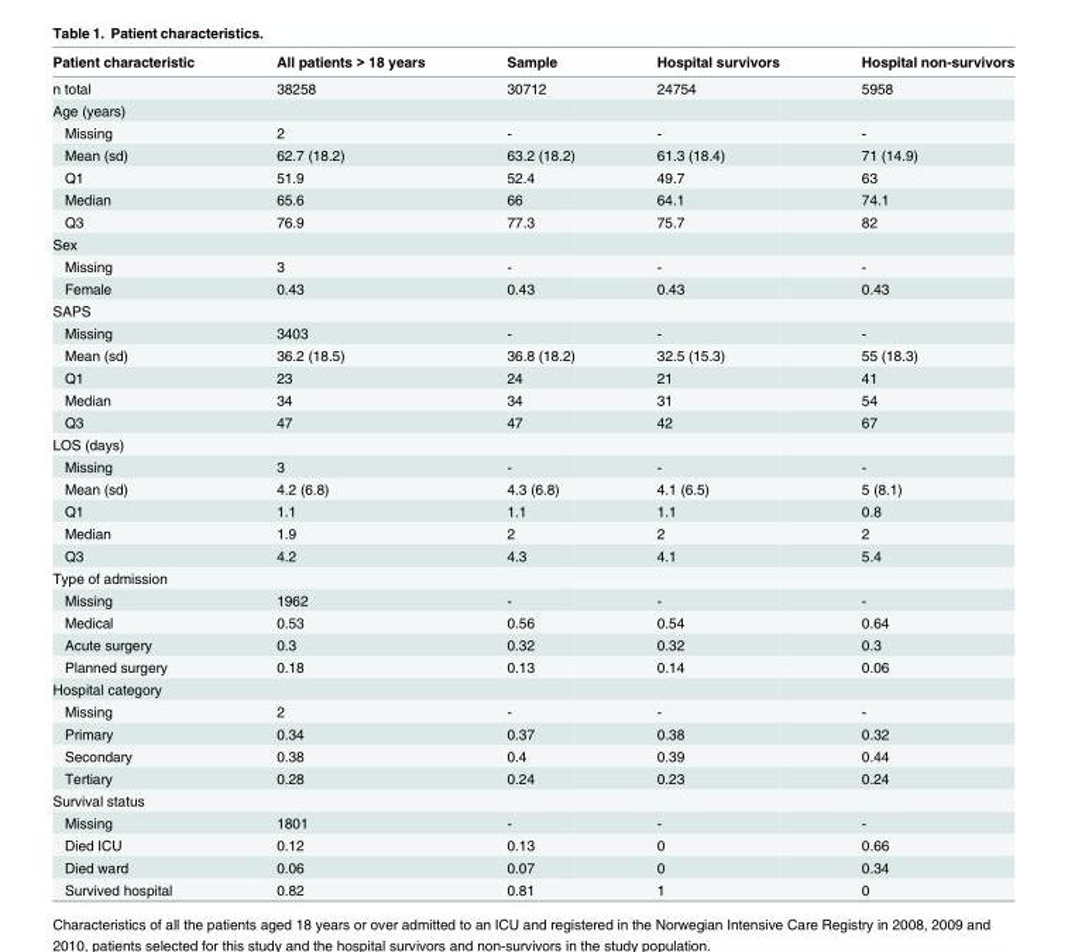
<table><thead><tr><td>Patient characteristic</td><td>All patients &gt; 18 years</td><td>Sample</td><td>Hospital survivors</td><td>Hospital non-survivors</td></tr></thead><tbody><tr><td>n total</td><td>38258</td><td>30712</td><td>24754</td><td>5958</td></tr><tr><td colspan="5">Age (years)</td></tr><tr><td>Missing</td><td>2</td><td>-</td><td>-</td><td>-</td></tr><tr><td>Mean (sd)</td><td>62.7 (18.2)</td><td>63.2 (18.2)</td><td>61.3 (18.4)</td><td>71 (14.9)</td></tr><tr><td>Q1</td><td>51.9</td><td>52.4</td><td>49.7</td><td>63</td></tr><tr><td>Median</td><td>65.6</td><td>66</td><td>64.1</td><td>74.1</td></tr><tr><td>Q3</td><td>76.9</td><td>77.3</td><td>75.7</td><td>82</td></tr><tr><td colspan="5">Sex</td></tr><tr><td>Missing</td><td>3</td><td>-</td><td>-</td><td>-</td></tr><tr><td>Female</td><td>0.43</td><td>0.43</td><td>0.43</td><td>0.43</td></tr><tr><td colspan="5">SAPS</td></tr><tr><td>Missing</td><td>3403</td><td>-</td><td>-</td><td>-</td></tr><tr><td>Mean (sd)</td><td>36.2 (18.5)</td><td>36.8 (18.2)</td><td>32.5 (15.3)</td><td>55 (18.3)</td></tr><tr><td>Q1</td><td>23</td><td>24</td><td>21</td><td>41</td></tr><tr><td>Median</td><td>34</td><td>34</td><td>31</td><td>54</td></tr><tr><td>Q3</td><td>47</td><td>47</td><td>42</td><td>67</td></tr><tr><td colspan="5">LOS (days)</td></tr><tr><td>Missing</td><td>3</td><td>-</td><td>-</td><td>-</td></tr><tr><td>Mean (sd)</td><td>4.2 (6.8)</td><td>4.3 (6.8)</td><td>4.1 (6.5)</td><td>5 (8.1)</td></tr><tr><td>Q1</td><td>1.1</td><td>1.1</td><td>1.1</td><td>0.8</td></tr><tr><td>Median</td><td>1.9</td><td>2</td><td>2</td><td>2</td></tr><tr><td>Q3</td><td>4.2</td><td>4.3</td><td>4.1</td><td>5.4</td></tr><tr><td colspan="5">Type of admission</td></tr><tr><td>Missing</td><td>1962</td><td>-</td><td>-</td><td>-</td></tr><tr><td>Medical</td><td>0.53</td><td>0.56</td><td>0.54</td><td>0.64</td></tr><tr><td>Acute surgery</td><td>0.3</td><td>0.32</td><td>0.32</td><td>0.3</td></tr><tr><td>Planned surgery</td><td>0.18</td><td>0.13</td><td>0.14</td><td>0.06</td></tr><tr><td colspan="5">Hospital category</td></tr><tr><td>Missing</td><td>2</td><td>-</td><td>-</td><td>-</td></tr><tr><td>Primary</td><td>0.34</td><td>0.37</td><td>0.38</td><td>0.32</td></tr><tr><td>Secondary</td><td>0.38</td><td>0.4</td><td>0.39</td><td>0.44</td></tr><tr><td>Tertiary</td><td>0.28</td><td>0.24</td><td>0.23</td><td>0.24</td></tr><tr><td colspan="5">Survival status</td></tr><tr><td>Missing</td><td>1801</td><td>-</td><td>-</td><td>-</td></tr><tr><td>Died ICU</td><td>0.12</td><td>0.13</td><td>0</td><td>0.66</td></tr><tr><td>Died ward</td><td>0.06</td><td>0.07</td><td>0</td><td>0.34</td></tr><tr><td>Survived hospital</td><td>0.82</td><td>0.81</td><td>1</td><td>0</td></tr></tbody></table>